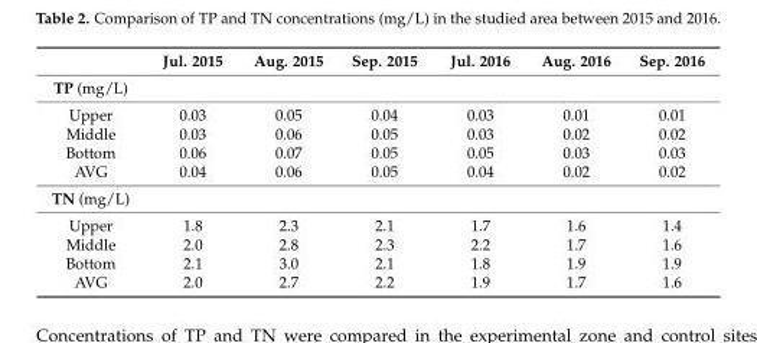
<table><thead><tr><td></td><td>Jul. 2015</td><td>Aug. 2015</td><td>Sep. 2015</td><td>Jul. 2016</td><td>Aug. 2016</td><td>Sep. 2016</td></tr></thead><tbody><tr><td colspan="7">TP (mg/L)</td></tr><tr><td>Upper</td><td>0.03</td><td>0.05</td><td>0.04</td><td>0.03</td><td>0.01</td><td>0.01</td></tr><tr><td>Middle</td><td>0.03</td><td>0.06</td><td>0.05</td><td>0.03</td><td>0.02</td><td>0.02</td></tr><tr><td>Bottom</td><td>0.06</td><td>0.07</td><td>0.05</td><td>0.05</td><td>0.03</td><td>0.03</td></tr><tr><td>AVG</td><td>0.04</td><td>0.06</td><td>0.05</td><td>0.04</td><td>0.02</td><td>0.02</td></tr><tr><td colspan="7">TN (mg/L)</td></tr><tr><td>Upper</td><td>1.8</td><td>2.3</td><td>2.1</td><td>1.7</td><td>1.6</td><td>1.4</td></tr><tr><td>Middle</td><td>2.0</td><td>2.8</td><td>2.3</td><td>2.2</td><td>1.7</td><td>1.6</td></tr><tr><td>Bottom</td><td>2.1</td><td>3.0</td><td>2.1</td><td>1.8</td><td>1.9</td><td>1.9</td></tr><tr><td>AVG</td><td>2.0</td><td>2.7</td><td>2.2</td><td>1.9</td><td>1.7</td><td>1.6</td></tr></tbody></table>